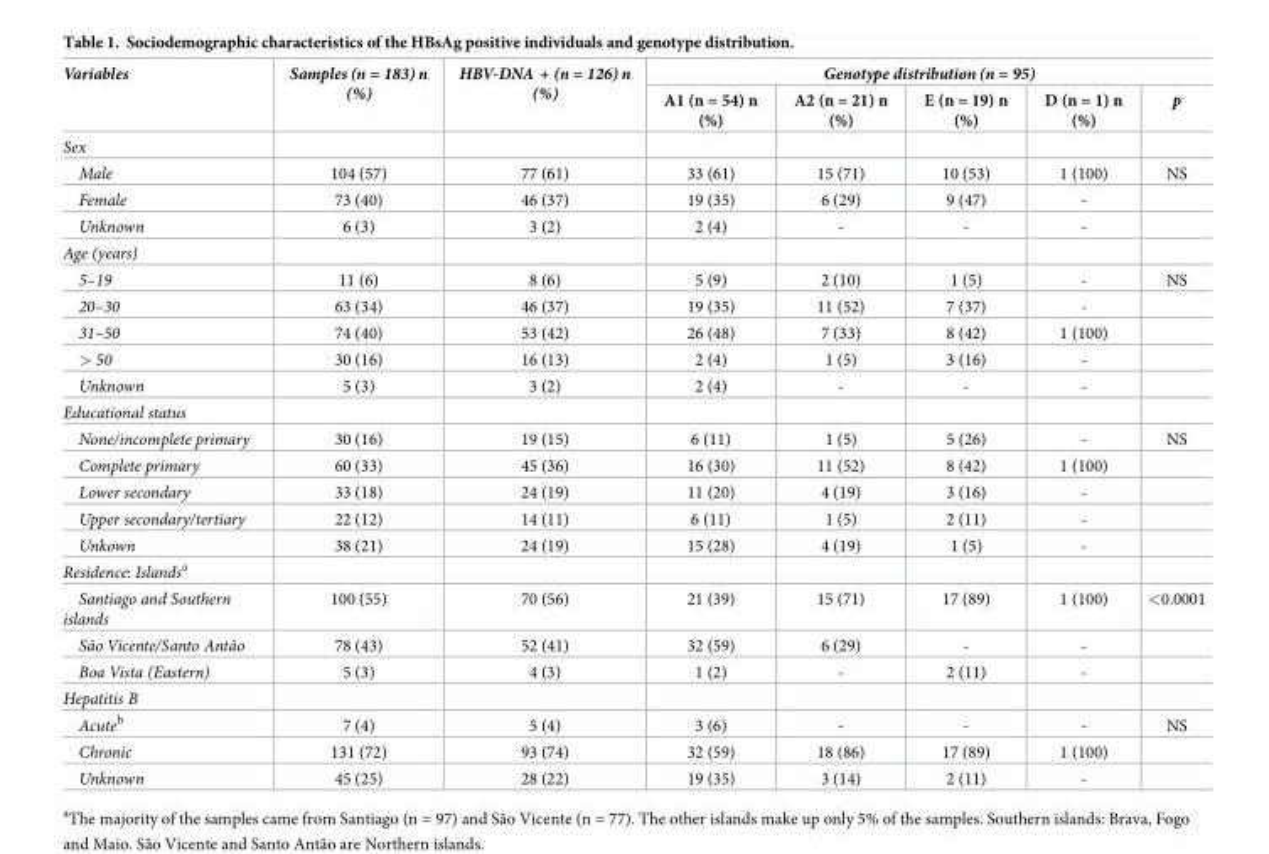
<table><thead><tr><td rowspan="2">Variables</td><td rowspan="2">Samples (n = 183) n (%)</td><td rowspan="2">HBV-DNA + (n = 126) n (%)</td><td colspan="5">Genotype distribution (n = 95)</td></tr><tr><td>A1 (n = 54) n (%)</td><td>A2 (n = 21) n (%)</td><td>E (n = 19) n (%)</td><td>D (n = 1) n (%)</td><td>p</td></tr></thead><tbody><tr><td colspan="8">Sex</td></tr><tr><td>Male</td><td>104 (57)</td><td>77 (61)</td><td>33 (61)</td><td>15 (71)</td><td>10 (53)</td><td>1 (100)</td><td>NS</td></tr><tr><td>Female</td><td>73 (40)</td><td>46 (37)</td><td>19 (35)</td><td>6 (29)</td><td>9 (47)</td><td>-</td><td></td></tr><tr><td>Unknown</td><td>6 (3)</td><td>3 (2)</td><td>2 (4)</td><td>-</td><td>-</td><td>-</td><td></td></tr><tr><td colspan="8">Age (years)</td></tr><tr><td>5–19</td><td>11 (6)</td><td>8 (6)</td><td>5 (9)</td><td>2 (10)</td><td>1 (5)</td><td>-</td><td>NS</td></tr><tr><td>20–30</td><td>63 (34)</td><td>46 (37)</td><td>19 (35)</td><td>11 (52)</td><td>7 (37)</td><td>-</td><td></td></tr><tr><td>31–50</td><td>74 (40)</td><td>53 (42)</td><td>26 (48)</td><td>7 (33)</td><td>8 (42)</td><td>1 (100)</td><td></td></tr><tr><td>&gt; 50</td><td>30 (16)</td><td>16 (13)</td><td>2 (4)</td><td>1 (5)</td><td>3 (16)</td><td>-</td><td></td></tr><tr><td>Unknown</td><td>5 (3)</td><td>3 (2)</td><td>2 (4)</td><td>-</td><td>-</td><td>-</td><td></td></tr><tr><td colspan="8">Educational status</td></tr><tr><td>None/incomplete primary</td><td>30 (16)</td><td>19 (15)</td><td>6 (11)</td><td>1 (5)</td><td>5 (26)</td><td>-</td><td>NS</td></tr><tr><td>Complete primary</td><td>60 (33)</td><td>45 (36)</td><td>16 (30)</td><td>11 (52)</td><td>8 (42)</td><td>1 (100)</td><td></td></tr><tr><td>Lower secondary</td><td>33 (18)</td><td>24 (19)</td><td>11 (20)</td><td>4 (19)</td><td>3 (16)</td><td>-</td><td></td></tr><tr><td>Upper secondary/tertiary</td><td>22 (12)</td><td>14 (11)</td><td>6 (11)</td><td>1 (5)</td><td>2 (11)</td><td>-</td><td></td></tr><tr><td>Unkown</td><td>38 (21)</td><td>24 (19)</td><td>15 (28)</td><td>4 (19)</td><td>1 (5)</td><td>-</td><td></td></tr><tr><td colspan="8">Residence: Islands<sup>a</sup></td></tr><tr><td>Santiago and Southern islands</td><td>100 (55)</td><td>70 (56)</td><td>21 (39)</td><td>15 (71)</td><td>17 (89)</td><td>1 (100)</td><td>&lt;0.0001</td></tr><tr><td>São Vicente/Santo Antão</td><td>78 (43)</td><td>52 (41)</td><td>32 (59)</td><td>6 (29)</td><td>-</td><td>-</td><td></td></tr><tr><td>Boa Vista (Eastern)</td><td>5 (3)</td><td>4 (3)</td><td>1 (2)</td><td>-</td><td>2 (11)</td><td>-</td><td></td></tr><tr><td colspan="8">Hepatitis B</td></tr><tr><td>Acute<sup>b</sup></td><td>7 (4)</td><td>5 (4)</td><td>3 (6)</td><td>-</td><td>-</td><td>-</td><td>NS</td></tr><tr><td>Chronic</td><td>131 (72)</td><td>93 (74)</td><td>32 (59)</td><td>18 (86)</td><td>17 (89)</td><td>1 (100)</td><td></td></tr><tr><td>Unknown</td><td>45 (25)</td><td>28 (22)</td><td>19 (35)</td><td>3 (14)</td><td>2 (11)</td><td>-</td><td></td></tr></tbody></table>